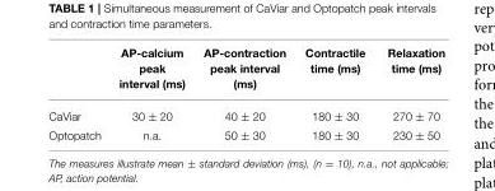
<table><thead><tr><td></td><td>AP-calcium peak interval (ms)</td><td>AP-contraction peak interval (ms)</td><td>Contractile time (ms)</td><td>Relaxation time (ms)</td></tr></thead><tbody><tr><td>CaViar</td><td>30 ± 20</td><td>40 ± 20</td><td>180 ± 30</td><td>270 ± 70</td></tr><tr><td>Optopatch</td><td>n.a.</td><td>50 ± 30</td><td>180 ± 30</td><td>230 ± 50</td></tr></tbody></table>